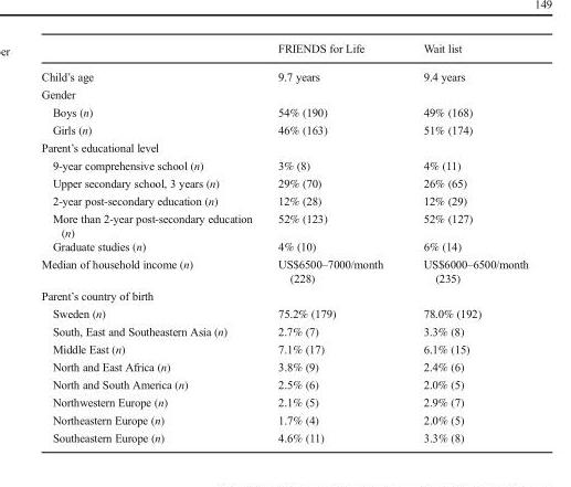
<table><thead><tr><td></td><td>FRIENDS for Life</td><td>Wait list</td></tr></thead><tbody><tr><td>Child’s age</td><td>9.7 years</td><td>9.4 years</td></tr><tr><td colspan="3">Gender</td></tr><tr><td>Boys (n)</td><td>54% (190)</td><td>49% (168)</td></tr><tr><td>Girls (n)</td><td>46% (163)</td><td>51% (174)</td></tr><tr><td colspan="3">Parent’s educational level</td></tr><tr><td>9-year comprehensive school (n)</td><td>3% (8)</td><td>4% (11)</td></tr><tr><td>Upper secondary school, 3 years (n)</td><td>29% (70)</td><td>26% (65)</td></tr><tr><td>2-year post-secondary education (n)</td><td>12% (28)</td><td>12% (29)</td></tr><tr><td>More than 2-year post-secondary education (n)</td><td>52% (123)</td><td>52% (127)</td></tr><tr><td>Graduate studies (n)</td><td>4% (10)</td><td>6% (14)</td></tr><tr><td>Median of household income (n)</td><td>US$6500–7000/month (228)</td><td>US$6000–6500/month (235)</td></tr><tr><td colspan="3">Parent’s country of birth</td></tr><tr><td>Sweden (n)</td><td>75.2% (179)</td><td>78.0% (192)</td></tr><tr><td>South, East and Southeastern Asia (n)</td><td>2.7% (7)</td><td>3.3% (8)</td></tr><tr><td>Middle East (n)</td><td>7.1% (17)</td><td>6.1% (15)</td></tr><tr><td>North and East Africa (n)</td><td>3.8% (9)</td><td>2.4% (6)</td></tr><tr><td>North and South America (n)</td><td>2.5% (6)</td><td>2.0% (5)</td></tr><tr><td>Northwestern Europe (n)</td><td>2.1% (5)</td><td>2.9% (7)</td></tr><tr><td>Northeastern Europe (n)</td><td>1.7% (4)</td><td>2.0% (5)</td></tr><tr><td>Southeastern Europe (n)</td><td>4.6% (11)</td><td>3.3% (8)</td></tr></tbody></table>